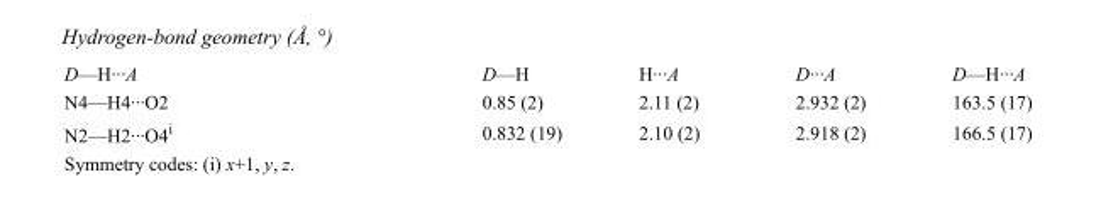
<table><tbody><tr><td>D—H···A</td><td>D—H</td><td>H···A</td><td>D···A</td><td>D—H···A</td></tr><tr><td>N4—H4···O2</td><td>0.85 (2)</td><td>2.11 (2)</td><td>2.932 (2)</td><td>163.5 (17)</td></tr><tr><td>N2—H2···O4<sup>i</sup></td><td>0.832 (19)</td><td>2.10 (2)</td><td>2.918 (2)</td><td>166.5 (17)</td></tr></tbody></table>